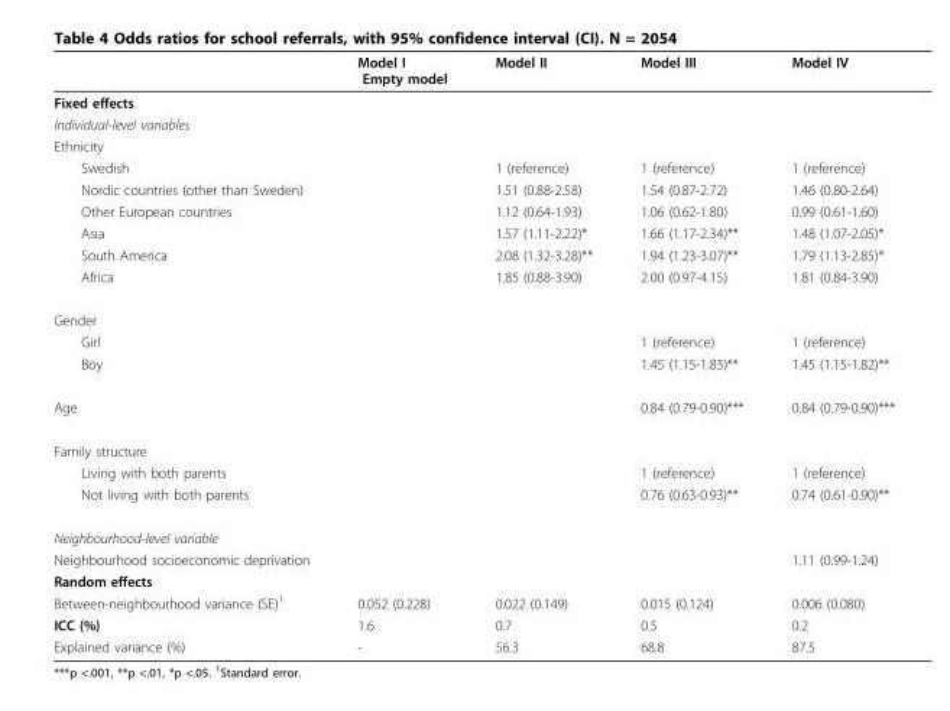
<table><thead><tr><td></td><td>Model I Empty model</td><td>Model II</td><td>Model III</td><td>Model IV</td></tr></thead><tbody><tr><td colspan="5">Fixed effects</td></tr><tr><td colspan="5">Individual-level variables</td></tr><tr><td colspan="5">Ethnicity</td></tr><tr><td>Swedish</td><td></td><td>1 (reference)</td><td>1 (reference)</td><td>1 (reference)</td></tr><tr><td>Nordic countries (other than Sweden)</td><td></td><td>1.51 (0.88-2.58)</td><td>1.54 (0.87-2.72)</td><td>1.46 (0.80-2.64)</td></tr><tr><td>Other European countries</td><td></td><td>1.12 (0.64-1.93)</td><td>1.06 (0.62-1.80)</td><td>0.99 (0.61-1.60)</td></tr><tr><td>Asia</td><td></td><td>1.57 (1.11-2.22)*</td><td>1.66 (1.17-2.34)**</td><td>1.48 (1.07-2.05)*</td></tr><tr><td>South America</td><td></td><td>2.08 (1.32-3.28)**</td><td>1.94 (1.23-3.07)**</td><td>1.79 (1.13-2.85)*</td></tr><tr><td>Africa</td><td></td><td>1.85 (0.88-3.90)</td><td>2.00 (0.97-4.15)</td><td>1.81 (0.84-3.90)</td></tr><tr><td colspan="5">Gender</td></tr><tr><td>Girl</td><td></td><td></td><td>1 (reference)</td><td>1 (reference)</td></tr><tr><td>Boy</td><td></td><td></td><td>1.45 (1.15-1.83)**</td><td>1.45 (1.15-1.82)**</td></tr><tr><td>Age</td><td></td><td></td><td>0.84 (0.79-0.90)***</td><td>0.84 (0.79-0.90)***</td></tr><tr><td colspan="5">Family structure</td></tr><tr><td>Living with both parents</td><td></td><td></td><td>1 (reference)</td><td>1 (reference)</td></tr><tr><td>Not living with both parents</td><td></td><td></td><td>0.76 (0.63-0.93)**</td><td>0.74 (0.61-0.90)**</td></tr><tr><td colspan="5">Neighbourhood-level variable</td></tr><tr><td>Neighbourhood socioeconomic deprivation</td><td></td><td></td><td></td><td>1.11 (0.99-1.24)</td></tr><tr><td colspan="5">Random effects</td></tr><tr><td>Between-neighbourhood variance (SE)<sup>1</sup></td><td>0.052 (0.228)</td><td>0.022 (0.149)</td><td>0.015 (0.124)</td><td>0.006 (0.080)</td></tr><tr><td>ICC (%)</td><td>1.6</td><td>0.7</td><td>0.5</td><td>0.2</td></tr><tr><td>Explained variance (%)</td><td>-</td><td>56.3</td><td>68.8</td><td>87.5</td></tr></tbody></table>